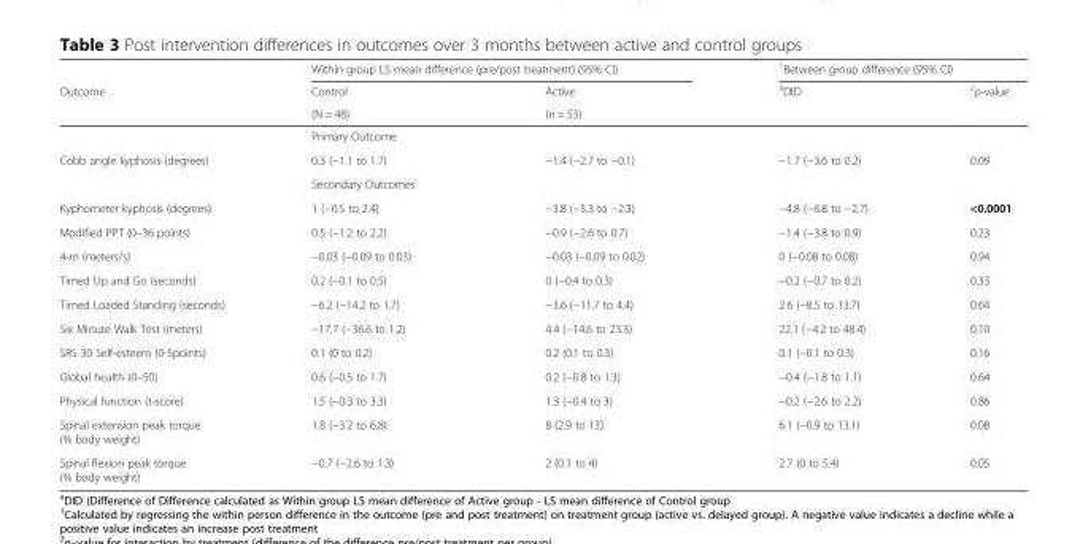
<table><thead><tr><td rowspan="3">Outcome</td><td colspan="2">Within group LS mean difference (pre/post treatment) (95% CI)</td><td colspan="2"><sup>1</sup>Between group difference (95% CI)</td></tr><tr><td rowspan="2">Control (N = 48)</td><td rowspan="2">Active (n = 53)</td><td rowspan="2"><sup>a</sup>DID</td><td rowspan="2"><sup>2</sup>p-value</td></tr><tr></tr></thead><tbody><tr><td></td><td colspan="4">Primary Outcome</td></tr><tr><td rowspan="2">Cobb angle kyphosis (degrees)</td><td>0.3 (−1.1 to 1.7)</td><td>−1.4 (−2.7 to −0.1)</td><td>−1.7 (−3.6 to 0.2)</td><td>0.09</td></tr><tr><td colspan="4">Secondary Outcomes</td></tr><tr><td>Kyphometer kyphosis (degrees)</td><td>1 (−0.5 to 2.4)</td><td>−3.8 (−5.3 to −2.3)</td><td>−4.8 (−6.8 to −2.7)</td><td>&lt;0.0001</td></tr><tr><td>Modified PPT (0–36 points)</td><td>0.5 (−1.2 to 2.2)</td><td>−0.9 (−2.6 to 0.7)</td><td>−1.4 (−3.8 to 0.9)</td><td>0.23</td></tr><tr><td>4-m (meters/s)</td><td>−0.03 (−0.09 to 0.03)</td><td>−0.03 (−0.09 to 0.02)</td><td>0 (−0.08 to 0.08)</td><td>0.94</td></tr><tr><td>Timed Up and Go (seconds)</td><td>0.2 (−0.1 to 0.5)</td><td>0 (−0.4 to 0.3)</td><td>−0.2 (−0.7 to 0.2)</td><td>0.33</td></tr><tr><td>Timed Loaded Standing (seconds)</td><td>−6.2 (−14.2 to 1.7)</td><td>−3.6 (−11.7 to 4.4)</td><td>2.6 (−8.5 to 13.7)</td><td>0.64</td></tr><tr><td>Six Minute Walk Test (meters)</td><td>−17.7 (−36.6 to 1.2)</td><td>4.4 (−14.6 to 23.3)</td><td>22.1 (−4.2 to 48.4)</td><td>0.10</td></tr><tr><td>SRS 30 Self-esteem (0-5points)</td><td>0.1 (0 to 0.2)</td><td>0.2 (0.1 to 0.3)</td><td>0.1 (−0.1 to 0.3)</td><td>0.16</td></tr><tr><td>Global health (0–50)</td><td>0.6 (−0.5 to 1.7)</td><td>0.2 (−0.8 to 1.3)</td><td>−0.4 (−1.8 to 1.1)</td><td>0.64</td></tr><tr><td>Physical function (t-score)</td><td>1.5 (−0.3 to 3.3)</td><td>1.3 (−0.4 to 3)</td><td>−0.2 (−2.6 to 2.2)</td><td>0.86</td></tr><tr><td>Spinal extension peak torque (% body weight)</td><td>1.8 (−3.2 to 6.8)</td><td>8 (2.9 to 13)</td><td>6.1 (−0.9 to 13.1)</td><td>0.08</td></tr><tr><td>Spinal flexion peak torque (% body weight)</td><td>−0.7 (−2.6 to 1.3)</td><td>2 (0.1 to 4)</td><td>2.7 (0 to 5.4)</td><td>0.05</td></tr></tbody></table>